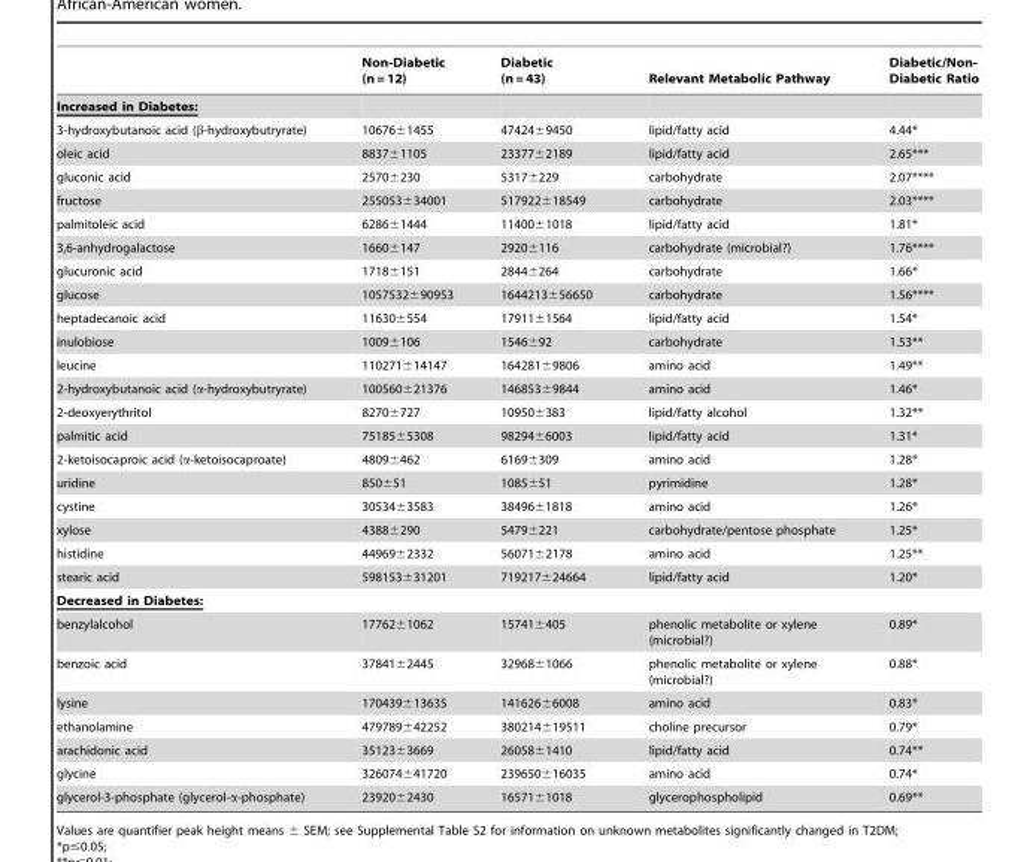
<table><thead><tr><td></td><td>Non-Diabetic (n = 12)</td><td>Diabetic (n = 43)</td><td>Relevant Metabolic Pathway</td><td>Diabetic/Non- Diabetic Ratio</td></tr></thead><tbody><tr><td colspan="5">Increased in Diabetes:</td></tr><tr><td>3-hydroxybutanoic acid (β-hydroxybutryrate)</td><td>10676±1455</td><td>47424±9450</td><td>lipid/fatty acid</td><td>4.44*</td></tr><tr><td>oleic acid</td><td>8837±1105</td><td>23377±2189</td><td>lipid/fatty acid</td><td>2.65***</td></tr><tr><td>gluconic acid</td><td>2570±230</td><td>5317±229</td><td>carbohydrate</td><td>2.07****</td></tr><tr><td>fructose</td><td>255053±34001</td><td>517922±18549</td><td>carbohydrate</td><td>2.03****</td></tr><tr><td>palmitoleic acid</td><td>6286±1444</td><td>11400±1018</td><td>lipid/fatty acid</td><td>1.81*</td></tr><tr><td>3,6-anhydrogalactose</td><td>1660±147</td><td>2920±116</td><td>carbohydrate (microbial?)</td><td>1.76****</td></tr><tr><td>glucuronic acid</td><td>1718±151</td><td>2844±264</td><td>carbohydrate</td><td>1.66*</td></tr><tr><td>glucose</td><td>1057532±90953</td><td>1644213±56650</td><td>carbohydrate</td><td>1.56****</td></tr><tr><td>heptadecanoic acid</td><td>11630±554</td><td>17911±1564</td><td>lipid/fatty acid</td><td>1.54*</td></tr><tr><td>inulobiose</td><td>1009±106</td><td>1546±92</td><td>carbohydrate</td><td>1.53**</td></tr><tr><td>leucine</td><td>110271±14147</td><td>164281±9806</td><td>amino acid</td><td>1.49**</td></tr><tr><td>2-hydroxybutanoic acid (α-hydroxybutryrate)</td><td>100560±21376</td><td>146853±9844</td><td>amino acid</td><td>1.46*</td></tr><tr><td>2-deoxyerythritol</td><td>8270±727</td><td>10950±383</td><td>lipid/fatty alcohol</td><td>1.32**</td></tr><tr><td>palmitic acid</td><td>75185±5308</td><td>98294±6003</td><td>lipid/fatty acid</td><td>1.31*</td></tr><tr><td>2-ketoisocaproic acid (α-ketoisocaproate)</td><td>4809±462</td><td>6169±309</td><td>amino acid</td><td>1.28*</td></tr><tr><td>uridine</td><td>850±51</td><td>1085±51</td><td>pyrimidine</td><td>1.28*</td></tr><tr><td>cystine</td><td>30534±3583</td><td>38496±1818</td><td>amino acid</td><td>1.26*</td></tr><tr><td>xylose</td><td>4388±290</td><td>5479±221</td><td>carbohydrate/pentose phosphate</td><td>1.25*</td></tr><tr><td>histidine</td><td>44969±2332</td><td>56071±2178</td><td>amino acid</td><td>1.25**</td></tr><tr><td>stearic acid</td><td>598153±31201</td><td>719217±24664</td><td>lipid/fatty acid</td><td>1.20*</td></tr><tr><td colspan="5">Decreased in Diabetes:</td></tr><tr><td>benzylalcohol</td><td>17762±1062</td><td>15741±405</td><td>phenolic metabolite or xylene (microbial?)</td><td>0.89*</td></tr><tr><td>benzoic acid</td><td>37841±2445</td><td>32968±1066</td><td>phenolic metabolite or xylene (microbial?)</td><td>0.88*</td></tr><tr><td>lysine</td><td>170439±13635</td><td>141626±6008</td><td>amino acid</td><td>0.83*</td></tr><tr><td>ethanolamine</td><td>479789±42252</td><td>380214±19511</td><td>choline precursor</td><td>0.79*</td></tr><tr><td>arachidonic acid</td><td>35123±3669</td><td>26058±1410</td><td>lipid/fatty acid</td><td>0.74**</td></tr><tr><td>glycine</td><td>326074±41720</td><td>239650±16035</td><td>amino acid</td><td>0.74*</td></tr><tr><td>glycerol-3-phosphate (glycerol-α-phosphate)</td><td>23920±2430</td><td>16571±1018</td><td>glycerophospholipid</td><td>0.69**</td></tr></tbody></table>